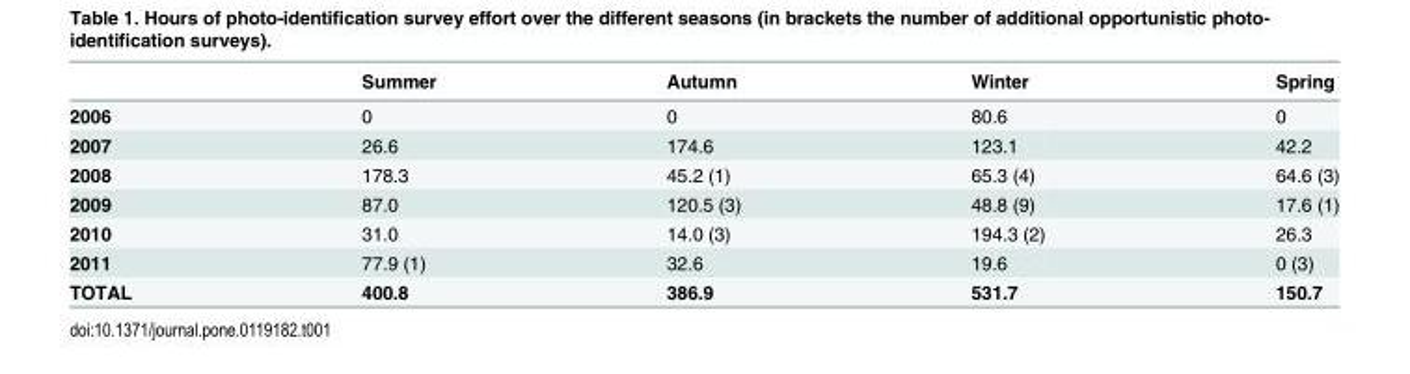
<table><thead><tr><td></td><td>Summer</td><td>Autumn</td><td>Winter</td><td>Spring</td></tr></thead><tbody><tr><td>2006</td><td>0</td><td>0</td><td>80.6</td><td>0</td></tr><tr><td>2007</td><td>26.6</td><td>174.6</td><td>123.1</td><td>42.2</td></tr><tr><td>2008</td><td>178.3</td><td>45.2 (1)</td><td>65.3 (4)</td><td>64.6 (3)</td></tr><tr><td>2009</td><td>87.0</td><td>120.5 (3)</td><td>48.8 (9)</td><td>17.6 (1)</td></tr><tr><td>2010</td><td>31.0</td><td>14.0 (3)</td><td>194.3 (2)</td><td>26.3</td></tr><tr><td>2011</td><td>77.9 (1)</td><td>32.6</td><td>19.6</td><td>0 (3)</td></tr><tr><td>TOTAL</td><td>400.8</td><td>386.9</td><td>531.7</td><td>150.7</td></tr></tbody></table>